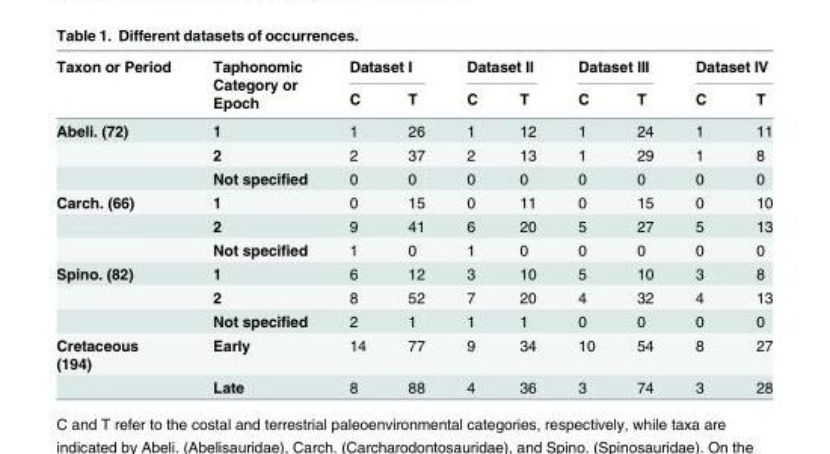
<table><thead><tr><td rowspan="2">Taxon or Period</td><td rowspan="2">Taphonomic Category or Epoch</td><td colspan="2">Dataset I</td><td colspan="2">Dataset II</td><td colspan="2">Dataset III</td><td colspan="2">Dataset IV</td></tr><tr><td>C</td><td>T</td><td>C</td><td>T</td><td>C</td><td>T</td><td>C</td><td>T</td></tr></thead><tbody><tr><td rowspan="3">Abeli. (72)</td><td>1</td><td>1</td><td>26</td><td>1</td><td>12</td><td>1</td><td>24</td><td>1</td><td>11</td></tr><tr><td>2</td><td>2</td><td>37</td><td>2</td><td>13</td><td>1</td><td>29</td><td>1</td><td>8</td></tr><tr><td>Not specified</td><td>0</td><td>0</td><td>0</td><td>0</td><td>0</td><td>0</td><td>0</td><td>0</td></tr><tr><td rowspan="3">Carch. (66)</td><td>1</td><td>0</td><td>15</td><td>0</td><td>11</td><td>0</td><td>15</td><td>0</td><td>10</td></tr><tr><td>2</td><td>9</td><td>41</td><td>6</td><td>20</td><td>5</td><td>27</td><td>5</td><td>13</td></tr><tr><td>Not specified</td><td>1</td><td>0</td><td>1</td><td>0</td><td>0</td><td>0</td><td>0</td><td>0</td></tr><tr><td rowspan="3">Spino. (82)</td><td>1</td><td>6</td><td>12</td><td>3</td><td>10</td><td>5</td><td>10</td><td>3</td><td>8</td></tr><tr><td>2</td><td>8</td><td>52</td><td>7</td><td>20</td><td>4</td><td>32</td><td>4</td><td>13</td></tr><tr><td>Not specified</td><td>2</td><td>1</td><td>1</td><td>1</td><td>0</td><td>0</td><td>0</td><td>0</td></tr><tr><td rowspan="2">Cretaceous (194)</td><td>Early</td><td>14</td><td>77</td><td>9</td><td>34</td><td>10</td><td>54</td><td>8</td><td>27</td></tr><tr><td>Late</td><td>8</td><td>88</td><td>4</td><td>36</td><td>3</td><td>74</td><td>3</td><td>28</td></tr></tbody></table>